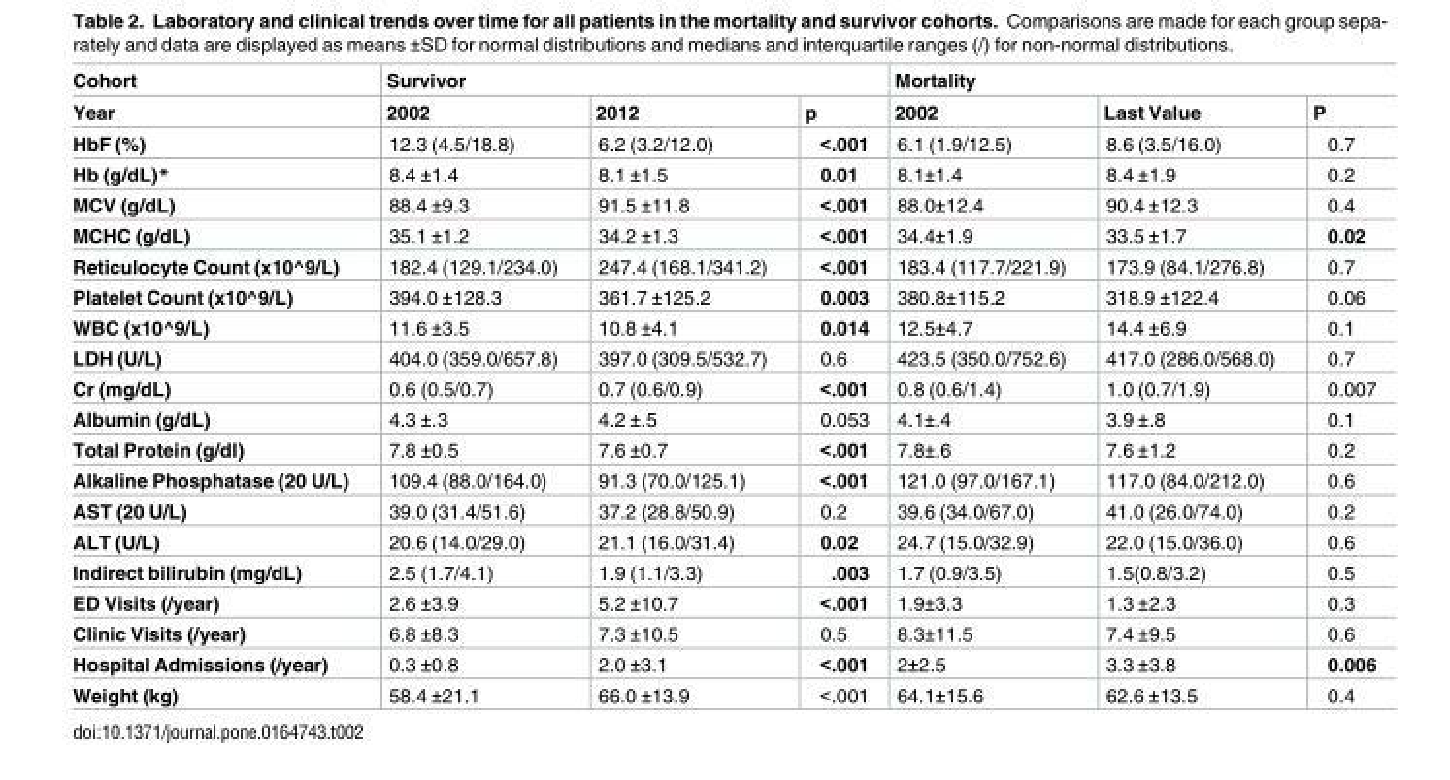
<table><thead><tr><td rowspan="2">Cohort Year</td><td colspan="3">Survivor</td><td colspan="3">Mortality</td></tr><tr><td>2002</td><td>2012</td><td>p</td><td>2002</td><td>Last Value</td><td>P</td></tr></thead><tbody><tr><td>HbF (%)</td><td>12.3 (4.5/18.8)</td><td>6.2 (3.2/12.0)</td><td>&lt;.001</td><td>6.1 (1.9/12.5)</td><td>8.6 (3.5/16.0)</td><td>0.7</td></tr><tr><td>Hb (g/dL)*</td><td>8.4 ±1.4</td><td>8.1 ±1.5</td><td>0.01</td><td>8.1±1.4</td><td>8.4 ±1.9</td><td>0.2</td></tr><tr><td>MCV (g/dL)</td><td>88.4 ±9.3</td><td>91.5 ±11.8</td><td>&lt;.001</td><td>88.0±12.4</td><td>90.4 ±12.3</td><td>0.4</td></tr><tr><td>MCHC (g/dL)</td><td>35.1 ±1.2</td><td>34.2 ±1.3</td><td>&lt;.001</td><td>34.4±1.9</td><td>33.5 ±1.7</td><td>0.02</td></tr><tr><td>Reticulocyte Count (x10^9/L)</td><td>182.4 (129.1/234.0)</td><td>247.4 (168.1/341.2)</td><td>&lt;.001</td><td>183.4 (117.7/221.9)</td><td>173.9 (84.1/276.8)</td><td>0.7</td></tr><tr><td>Platelet Count (x10^9/L)</td><td>394.0 ±128.3</td><td>361.7 ±125.2</td><td>0.003</td><td>380.8±115.2</td><td>318.9 ±122.4</td><td>0.06</td></tr><tr><td>WBC (x10^9/L)</td><td>11.6 ±3.5</td><td>10.8 ±4.1</td><td>0.014</td><td>12.5±4.7</td><td>14.4 ±6.9</td><td>0.1</td></tr><tr><td>LDH (U/L)</td><td>404.0 (359.0/657.8)</td><td>397.0 (309.5/532.7)</td><td>0.6</td><td>423.5 (350.0/752.6)</td><td>417.0 (286.0/568.0)</td><td>0.7</td></tr><tr><td>Cr (mg/dL)</td><td>0.6 (0.5/0.7)</td><td>0.7 (0.6/0.9)</td><td>&lt;.001</td><td>0.8 (0.6/1.4)</td><td>1.0 (0.7/1.9)</td><td>0.007</td></tr><tr><td>Albumin (g/dL)</td><td>4.3 ±.3</td><td>4.2 ±.5</td><td>0.053</td><td>4.1±.4</td><td>3.9 ±.8</td><td>0.1</td></tr><tr><td>Total Protein (g/dl)</td><td>7.8 ±0.5</td><td>7.6 ±0.7</td><td>&lt;.001</td><td>7.8±.6</td><td>7.6 ±1.2</td><td>0.2</td></tr><tr><td>Alkaline Phosphatase (20 U/L)</td><td>109.4 (88.0/164.0)</td><td>91.3 (70.0/125.1)</td><td>&lt;.001</td><td>121.0 (97.0/167.1)</td><td>117.0 (84.0/212.0)</td><td>0.6</td></tr><tr><td>AST (20 U/L)</td><td>39.0 (31.4/51.6)</td><td>37.2 (28.8/50.9)</td><td>0.2</td><td>39.6 (34.0/67.0)</td><td>41.0 (26.0/74.0)</td><td>0.2</td></tr><tr><td>ALT (U/L)</td><td>20.6 (14.0/29.0)</td><td>21.1 (16.0/31.4)</td><td>0.02</td><td>24.7 (15.0/32.9)</td><td>22.0 (15.0/36.0)</td><td>0.6</td></tr><tr><td>Indirect bilirubin (mg/dL)</td><td>2.5 (1.7/4.1)</td><td>1.9 (1.1/3.3)</td><td>.003</td><td>1.7 (0.9/3.5)</td><td>1.5(0.8/3.2)</td><td>0.5</td></tr><tr><td>ED Visits (/year)</td><td>2.6 ±3.9</td><td>5.2 ±10.7</td><td>&lt;.001</td><td>1.9±3.3</td><td>1.3 ±2.3</td><td>0.3</td></tr><tr><td>Clinic Visits (/year)</td><td>6.8 ±8.3</td><td>7.3 ±10.5</td><td>0.5</td><td>8.3±11.5</td><td>7.4 ±9.5</td><td>0.6</td></tr><tr><td>Hospital Admissions (/year)</td><td>0.3 ±0.8</td><td>2.0 ±3.1</td><td>&lt;.001</td><td>2±2.5</td><td>3.3 ±3.8</td><td>0.006</td></tr><tr><td>Weight (kg)</td><td>58.4 ±21.1</td><td>66.0 ±13.9</td><td>&lt;.001</td><td>64.1±15.6</td><td>62.6 ±13.5</td><td>0.4</td></tr></tbody></table>